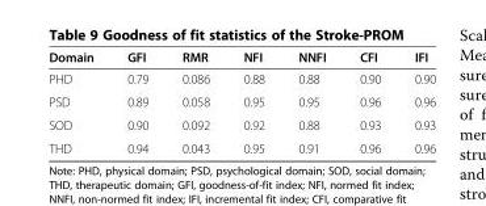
<table><thead><tr><td>Domain</td><td>GFI</td><td>RMR</td><td>NFI</td><td>NNFI</td><td>CFI</td><td>IFI</td></tr></thead><tbody><tr><td>PHD</td><td>0.79</td><td>0.086</td><td>0.88</td><td>0.88</td><td>0.90</td><td>0.90</td></tr><tr><td>PSD</td><td>0.89</td><td>0.058</td><td>0.95</td><td>0.95</td><td>0.96</td><td>0.96</td></tr><tr><td>SOD</td><td>0.90</td><td>0.092</td><td>0.92</td><td>0.88</td><td>0.93</td><td>0.93</td></tr><tr><td>THD</td><td>0.94</td><td>0.043</td><td>0.95</td><td>0.91</td><td>0.96</td><td>0.96</td></tr></tbody></table>